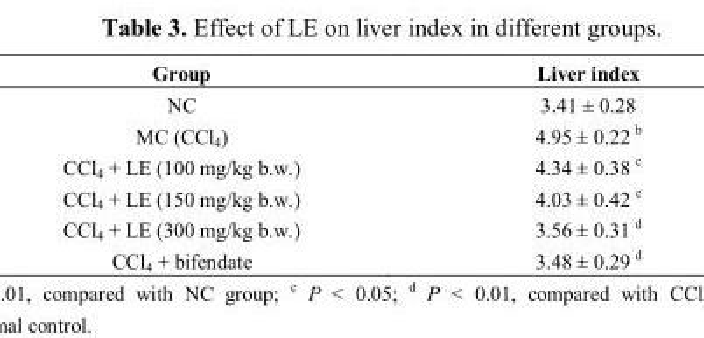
<table><thead><tr><td>Group</td><td>Liver index</td></tr></thead><tbody><tr><td>NC</td><td>3.41 ± 0.28</td></tr><tr><td>MC (CCl<sub>4</sub>)</td><td>4.95 ± 0.22 b</td></tr><tr><td>CCl<sub>4</sub> + LE (100 mg/kg b.w.)</td><td>4.34 ± 0.38 c</td></tr><tr><td>CCl<sub>4</sub> + LE (150 mg/kg b.w.)</td><td>4.03 ± 0.42 c</td></tr><tr><td>CCl<sub>4</sub> + LE (300 mg/kg b.w.)</td><td>3.56 ± 0.31 d</td></tr><tr><td>CCl<sub>4</sub> + bifendate</td><td>3.48 ± 0.29 d</td></tr></tbody></table>